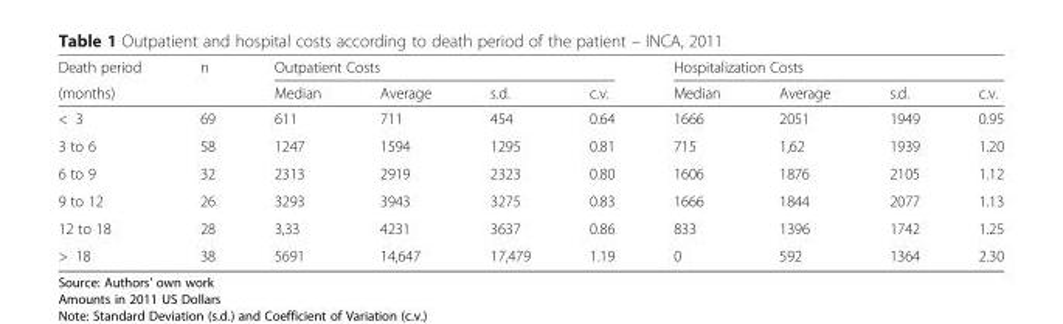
<table><thead><tr><td rowspan="2">Death period (months)</td><td rowspan="2">n</td><td colspan="4">Outpatient Costs</td><td colspan="4">Hospitalization Costs</td></tr><tr><td>Median</td><td>Average</td><td>s.d.</td><td>c.v.</td><td>Median</td><td>Average</td><td>s.d.</td><td>c.v.</td></tr></thead><tbody><tr><td>&lt; 3</td><td>69</td><td>611</td><td>711</td><td>454</td><td>0.64</td><td>1666</td><td>2051</td><td>1949</td><td>0.95</td></tr><tr><td>3 to 6</td><td>58</td><td>1247</td><td>1594</td><td>1295</td><td>0.81</td><td>715</td><td>1,62</td><td>1939</td><td>1.20</td></tr><tr><td>6 to 9</td><td>32</td><td>2313</td><td>2919</td><td>2323</td><td>0.80</td><td>1606</td><td>1876</td><td>2105</td><td>1.12</td></tr><tr><td>9 to 12</td><td>26</td><td>3293</td><td>3943</td><td>3275</td><td>0.83</td><td>1666</td><td>1844</td><td>2077</td><td>1.13</td></tr><tr><td>12 to 18</td><td>28</td><td>3,33</td><td>4231</td><td>3637</td><td>0.86</td><td>833</td><td>1396</td><td>1742</td><td>1.25</td></tr><tr><td>&gt; 18</td><td>38</td><td>5691</td><td>14,647</td><td>17,479</td><td>1.19</td><td>0</td><td>592</td><td>1364</td><td>2.30</td></tr></tbody></table>